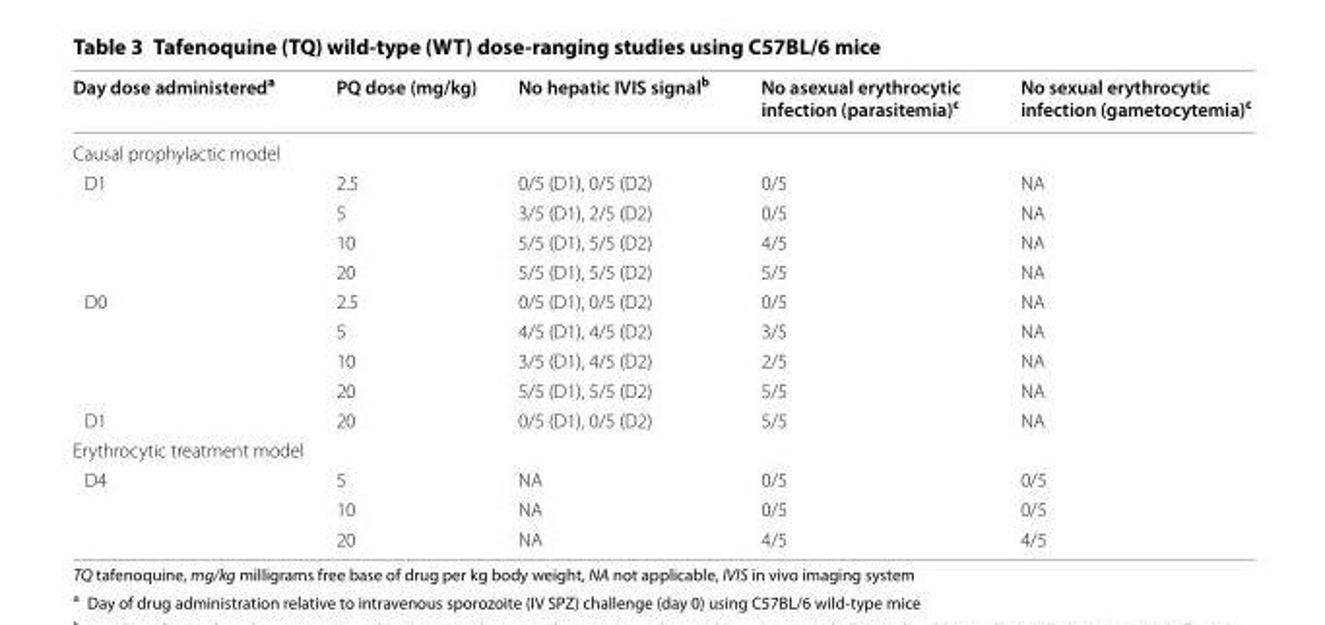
<table><thead><tr><td>Day dose administered<sup>a</sup></td><td>PQ dose (mg/kg)</td><td>No hepatic IVIS signal<sup>b</sup></td><td>No asexual erythrocytic infection (parasitemia)<sup>c</sup></td><td>No sexual erythrocytic infection (gametocytemia)<sup>c</sup></td></tr></thead><tbody><tr><td colspan="5">Causal prophylactic model</td></tr><tr><td rowspan="4">D1</td><td>2.5</td><td>0/5 (D1), 0/5 (D2)</td><td>0/5</td><td>NA</td></tr><tr><td>5</td><td>3/5 (D1), 2/5 (D2)</td><td>0/5</td><td>NA</td></tr><tr><td>10</td><td>5/5 (D1), 5/5 (D2)</td><td>4/5</td><td>NA</td></tr><tr><td>20</td><td>5/5 (D1), 5/5 (D2)</td><td>5/5</td><td>NA</td></tr><tr><td rowspan="4">D0</td><td>2.5</td><td>0/5 (D1), 0/5 (D2)</td><td>0/5</td><td>NA</td></tr><tr><td>5</td><td>4/5 (D1), 4/5 (D2)</td><td>3/5</td><td>NA</td></tr><tr><td>10</td><td>3/5 (D1), 4/5 (D2)</td><td>2/5</td><td>NA</td></tr><tr><td>20</td><td>5/5 (D1), 5/5 (D2)</td><td>5/5</td><td>NA</td></tr><tr><td>D1</td><td>20</td><td>0/5 (D1), 0/5 (D2)</td><td>5/5</td><td>NA</td></tr><tr><td colspan="5">Erythrocytic treatment model</td></tr><tr><td rowspan="3">D4</td><td>5</td><td>NA</td><td>0/5</td><td>0/5</td></tr><tr><td>10</td><td>NA</td><td>0/5</td><td>0/5</td></tr><tr><td>20</td><td>NA</td><td>4/5</td><td>4/5</td></tr></tbody></table>